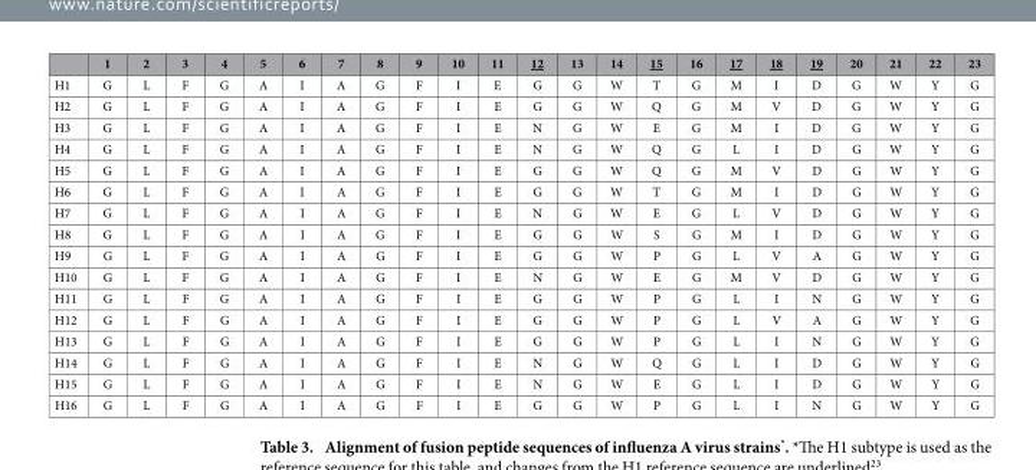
<table><thead><tr><td></td><td>1</td><td>2</td><td>3</td><td>4</td><td>5</td><td>6</td><td>7</td><td>8</td><td>9</td><td>10</td><td>11</td><td>12</td><td>13</td><td>14</td><td>15</td><td>16</td><td>17</td><td>18</td><td>19</td><td>20</td><td>21</td><td>22</td><td>23</td></tr></thead><tbody><tr><td>H1</td><td>G</td><td>L</td><td>F</td><td>G</td><td>A</td><td>I</td><td>A</td><td>G</td><td>F</td><td>I</td><td>E</td><td>G</td><td>G</td><td>W</td><td>T</td><td>G</td><td>M</td><td>I</td><td>D</td><td>G</td><td>W</td><td>Y</td><td>G</td></tr><tr><td>H2</td><td>G</td><td>L</td><td>F</td><td>G</td><td>A</td><td>I</td><td>A</td><td>G</td><td>F</td><td>I</td><td>E</td><td>G</td><td>G</td><td>W</td><td>Q</td><td>G</td><td>M</td><td>V</td><td>D</td><td>G</td><td>W</td><td>Y</td><td>G</td></tr><tr><td>H3</td><td>G</td><td>L</td><td>F</td><td>G</td><td>A</td><td>I</td><td>A</td><td>G</td><td>F</td><td>I</td><td>E</td><td>N</td><td>G</td><td>W</td><td>E</td><td>G</td><td>M</td><td>I</td><td>D</td><td>G</td><td>W</td><td>Y</td><td>G</td></tr><tr><td>H4</td><td>G</td><td>L</td><td>F</td><td>G</td><td>A</td><td>I</td><td>A</td><td>G</td><td>F</td><td>I</td><td>E</td><td>N</td><td>G</td><td>W</td><td>Q</td><td>G</td><td>L</td><td>I</td><td>D</td><td>G</td><td>W</td><td>Y</td><td>G</td></tr><tr><td>H5</td><td>G</td><td>L</td><td>F</td><td>G</td><td>A</td><td>I</td><td>A</td><td>G</td><td>F</td><td>I</td><td>E</td><td>G</td><td>G</td><td>W</td><td>Q</td><td>G</td><td>M</td><td>V</td><td>D</td><td>G</td><td>W</td><td>Y</td><td>G</td></tr><tr><td>H6</td><td>G</td><td>L</td><td>F</td><td>G</td><td>A</td><td>I</td><td>A</td><td>G</td><td>F</td><td>I</td><td>E</td><td>G</td><td>G</td><td>W</td><td>T</td><td>G</td><td>M</td><td>I</td><td>D</td><td>G</td><td>W</td><td>Y</td><td>G</td></tr><tr><td>H7</td><td>G</td><td>L</td><td>F</td><td>G</td><td>A</td><td>I</td><td>A</td><td>G</td><td>F</td><td>I</td><td>E</td><td>N</td><td>G</td><td>W</td><td>E</td><td>G</td><td>L</td><td>V</td><td>D</td><td>G</td><td>W</td><td>Y</td><td>G</td></tr><tr><td>H8</td><td>G</td><td>L</td><td>F</td><td>G</td><td>A</td><td>I</td><td>A</td><td>G</td><td>F</td><td>I</td><td>E</td><td>G</td><td>G</td><td>W</td><td>S</td><td>G</td><td>M</td><td>I</td><td>D</td><td>G</td><td>W</td><td>Y</td><td>G</td></tr><tr><td>H9</td><td>G</td><td>L</td><td>F</td><td>G</td><td>A</td><td>I</td><td>A</td><td>G</td><td>F</td><td>I</td><td>E</td><td>G</td><td>G</td><td>W</td><td>P</td><td>G</td><td>L</td><td>V</td><td>A</td><td>G</td><td>W</td><td>Y</td><td>G</td></tr><tr><td>H10</td><td>G</td><td>L</td><td>F</td><td>G</td><td>A</td><td>I</td><td>A</td><td>G</td><td>F</td><td>I</td><td>E</td><td>N</td><td>G</td><td>W</td><td>E</td><td>G</td><td>M</td><td>V</td><td>D</td><td>G</td><td>W</td><td>Y</td><td>G</td></tr><tr><td>H11</td><td>G</td><td>L</td><td>F</td><td>G</td><td>A</td><td>I</td><td>A</td><td>G</td><td>F</td><td>I</td><td>E</td><td>G</td><td>G</td><td>W</td><td>P</td><td>G</td><td>L</td><td>I</td><td>N</td><td>G</td><td>W</td><td>Y</td><td>G</td></tr><tr><td>H12</td><td>G</td><td>L</td><td>F</td><td>G</td><td>A</td><td>I</td><td>A</td><td>G</td><td>F</td><td>I</td><td>E</td><td>G</td><td>G</td><td>W</td><td>P</td><td>G</td><td>L</td><td>V</td><td>A</td><td>G</td><td>W</td><td>Y</td><td>G</td></tr><tr><td>H13</td><td>G</td><td>L</td><td>F</td><td>G</td><td>A</td><td>I</td><td>A</td><td>G</td><td>F</td><td>I</td><td>E</td><td>G</td><td>G</td><td>W</td><td>P</td><td>G</td><td>L</td><td>I</td><td>N</td><td>G</td><td>W</td><td>Y</td><td>G</td></tr><tr><td>H14</td><td>G</td><td>L</td><td>F</td><td>G</td><td>A</td><td>I</td><td>A</td><td>G</td><td>F</td><td>I</td><td>E</td><td>N</td><td>G</td><td>W</td><td>Q</td><td>G</td><td>L</td><td>I</td><td>D</td><td>G</td><td>W</td><td>Y</td><td>G</td></tr><tr><td>H15</td><td>G</td><td>L</td><td>F</td><td>G</td><td>A</td><td>I</td><td>A</td><td>G</td><td>F</td><td>I</td><td>E</td><td>N</td><td>G</td><td>W</td><td>E</td><td>G</td><td>L</td><td>I</td><td>D</td><td>G</td><td>W</td><td>Y</td><td>G</td></tr><tr><td>H16</td><td>G</td><td>L</td><td>F</td><td>G</td><td>A</td><td>I</td><td>A</td><td>G</td><td>F</td><td>I</td><td>E</td><td>G</td><td>G</td><td>W</td><td>P</td><td>G</td><td>L</td><td>I</td><td>N</td><td>G</td><td>W</td><td>Y</td><td>G</td></tr></tbody></table>